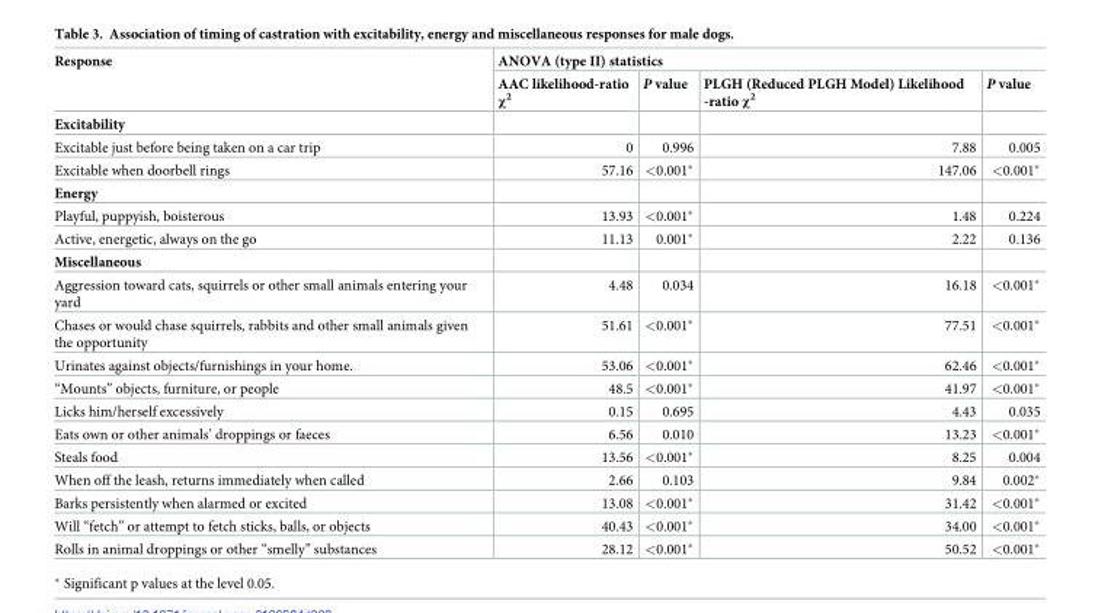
<table><thead><tr><td rowspan="2">Response</td><td colspan="4">ANOVA (type II) statistics</td></tr><tr><td>AAC likelihood-ratio χ<sup>2</sup></td><td>P value</td><td>PLGH (Reduced PLGH Model) Likelihood -ratio χ<sup>2</sup></td><td>P value</td></tr></thead><tbody><tr><td colspan="5">Excitability</td></tr><tr><td>Excitable just before being taken on a car trip</td><td>0</td><td>0.996</td><td>7.88</td><td>0.005</td></tr><tr><td>Excitable when doorbell rings</td><td>57.16</td><td>&lt;0.001*</td><td>147.06</td><td>&lt;0.001*</td></tr><tr><td colspan="5">Energy</td></tr><tr><td>Playful, puppyish, boisterous</td><td>13.93</td><td>&lt;0.001*</td><td>1.48</td><td>0.224</td></tr><tr><td>Active, energetic, always on the go</td><td>11.13</td><td>0.001*</td><td>2.22</td><td>0.136</td></tr><tr><td colspan="5">Miscellaneous</td></tr><tr><td>Aggression toward cats, squirrels or other small animals entering your yard</td><td>4.48</td><td>0.034</td><td>16.18</td><td>&lt;0.001*</td></tr><tr><td>Chases or would chase squirrels, rabbits and other small animals given the opportunity</td><td>51.61</td><td>&lt;0.001*</td><td>77.51</td><td>&lt;0.001*</td></tr><tr><td>Urinates against objects/furnishings in your home.</td><td>53.06</td><td>&lt;0.001*</td><td>62.46</td><td>&lt;0.001*</td></tr><tr><td>“Mounts” objects, furniture, or people</td><td>48.5</td><td>&lt;0.001*</td><td>41.97</td><td>&lt;0.001*</td></tr><tr><td>Licks him/herself excessively</td><td>0.15</td><td>0.695</td><td>4.43</td><td>0.035</td></tr><tr><td>Eats own or other animals’ droppings or faeces</td><td>6.56</td><td>0.010</td><td>13.23</td><td>&lt;0.001*</td></tr><tr><td>Steals food</td><td>13.56</td><td>&lt;0.001*</td><td>8.25</td><td>0.004</td></tr><tr><td>When off the leash, returns immediately when called</td><td>2.66</td><td>0.103</td><td>9.84</td><td>0.002*</td></tr><tr><td>Barks persistently when alarmed or excited</td><td>13.08</td><td>&lt;0.001*</td><td>31.42</td><td>&lt;0.001*</td></tr><tr><td>Will “fetch” or attempt to fetch sticks, balls, or objects</td><td>40.43</td><td>&lt;0.001*</td><td>34.00</td><td>&lt;0.001*</td></tr><tr><td>Rolls in animal droppings or other “smelly” substances</td><td>28.12</td><td>&lt;0.001*</td><td>50.52</td><td>&lt;0.001*</td></tr></tbody></table>